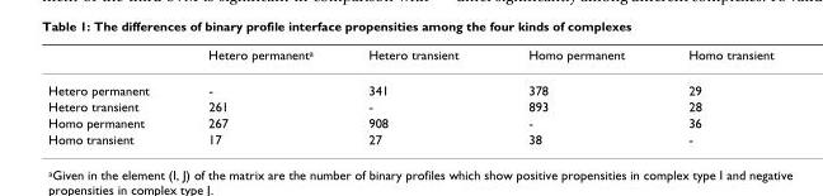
<table><thead><tr><td></td><td>Hetero permanent<sup>a</sup></td><td>Hetero transient</td><td>Homo permanent</td><td>Homo transient</td></tr></thead><tbody><tr><td>Hetero permanent</td><td>-</td><td>341</td><td>378</td><td>29</td></tr><tr><td>Hetero transient</td><td>261</td><td>-</td><td>893</td><td>28</td></tr><tr><td>Homo permanent</td><td>267</td><td>908</td><td>-</td><td>36</td></tr><tr><td>Homo transient</td><td>17</td><td>27</td><td>38</td><td>-</td></tr></tbody></table>